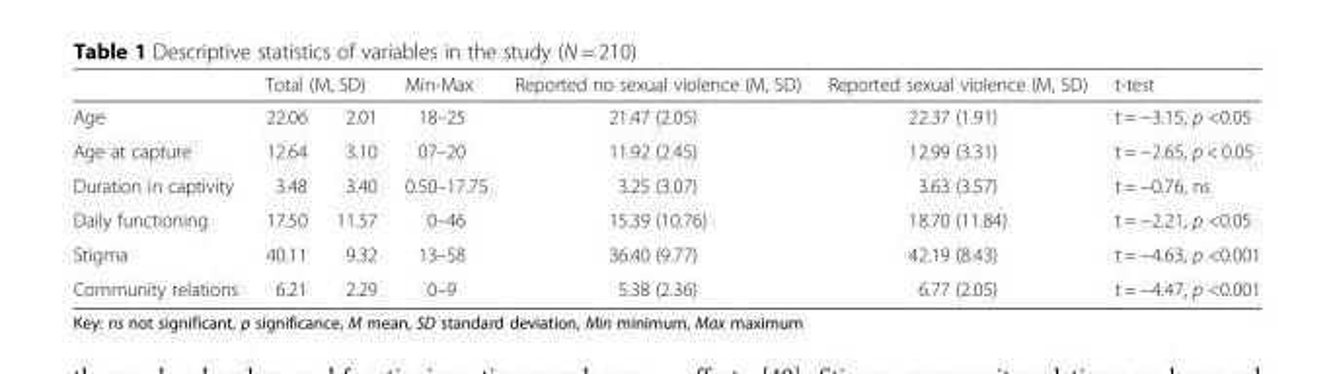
<table><thead><tr><td rowspan="2">Age</td><td colspan="2">Total (M, SD)</td><td rowspan="2">Min-Max 18–25</td><td rowspan="2">Reported no sexual violence (M, SD) 21.47 (2.05)</td><td rowspan="2">Reported sexual violence (M, SD) 22.37 (1.91)</td><td rowspan="2">t-test t = −3.15, p &lt;0.05</td></tr><tr><td>22.06</td><td>2.01</td></tr></thead><tbody><tr><td>Age at capture</td><td>12.64</td><td>3.10</td><td>07–20</td><td>11.92 (2.45)</td><td>12.99 (3.31)</td><td>t = −2.65, p &lt; 0.05</td></tr><tr><td>Duration in captivity</td><td>3.48</td><td>3.40</td><td>0.50–17.75</td><td>3.25 (3.07)</td><td>3.63 (3.57)</td><td>t = −0.76, ns</td></tr><tr><td>Daily functioning</td><td>17.50</td><td>11.57</td><td>0–46</td><td>15.39 (10.76)</td><td>18.70 (11.84)</td><td>t = −2.21, p &lt;0.05</td></tr><tr><td>Stigma</td><td>40.11</td><td>9.32</td><td>13–58</td><td>36.40 (9.77)</td><td>42.19 (8.43)</td><td>t = −4.63, p &lt;0.001</td></tr><tr><td>Community relations</td><td>6.21</td><td>2.29</td><td>0–9</td><td>5.38 (2.36)</td><td>6.77 (2.05)</td><td>t = −4.47, p &lt;0.001</td></tr></tbody></table>